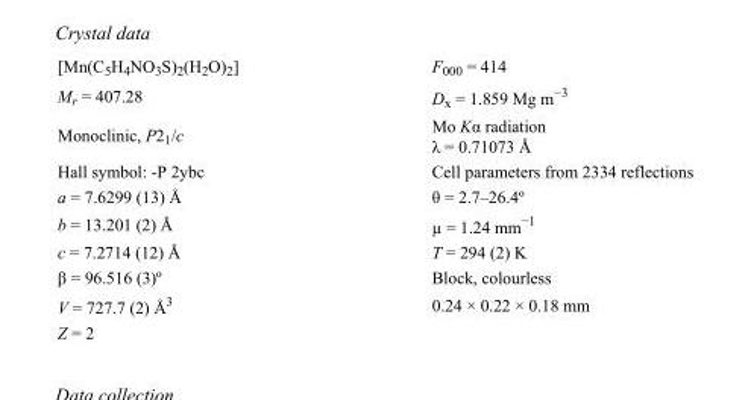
<table><tbody><tr><td>[Mn(C<sub>5</sub>H<sub>4</sub>NO<sub>3</sub>S)<sub>2</sub>(H<sub>2</sub>O)<sub>2</sub>]</td><td>F<sub>000</sub> = 414</td></tr><tr><td>M<sub>r</sub> = 407.28</td><td>D<sub>x</sub> = 1.859 Mg m<sup>−3</sup></td></tr><tr><td>Monoclinic, P2<sub>1</sub>/c</td><td>Mo Kα radiation λ = 0.71073 Å</td></tr><tr><td>Hall symbol: -P 2ybc</td><td>Cell parameters from 2334 reflections</td></tr><tr><td>a = 7.6299 (13) Å</td><td>θ = 2.7–26.4º</td></tr><tr><td>b = 13.201 (2) Å</td><td>µ = 1.24 mm<sup>−1</sup></td></tr><tr><td>c = 7.2714 (12) Å</td><td>T = 294 (2) K</td></tr><tr><td>β = 96.516 (3)º</td><td>Block, colourless</td></tr><tr><td>V = 727.7 (2) Å<sup>3</sup></td><td>0.24 × 0.22 × 0.18 mm</td></tr><tr><td>Z = 2</td><td></td></tr></tbody></table>